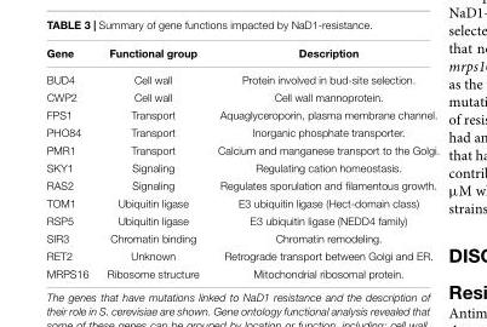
<table><thead><tr><td>Gene</td><td>Functional group</td><td>Description</td></tr></thead><tbody><tr><td>BUD4</td><td>Cell wall</td><td>Protein involved in bud-site selection.</td></tr><tr><td>CWP2</td><td>Cell wall</td><td>Cell wall mannoprotein.</td></tr><tr><td>FPS1</td><td>Transport</td><td>Aquaglyceroporin, plasma membrane channel.</td></tr><tr><td>PHO84</td><td>Transport</td><td>Inorganic phosphate transporter.</td></tr><tr><td>PMR1</td><td>Transport</td><td>Calcium and manganese transport to the Golgi.</td></tr><tr><td>SKY1</td><td>Signaling</td><td>Regulating cation homeostasis.</td></tr><tr><td>RAS2</td><td>Signaling</td><td>Regulates sporulation and filamentous growth.</td></tr><tr><td>TOM1</td><td>Ubiquitin ligase</td><td>E3 ubiquitin ligase (Hect-domain class)</td></tr><tr><td>RSP5</td><td>Ubiquitin ligase</td><td>E3 ubiquitin ligase (NEDD4 family)</td></tr><tr><td>SIR3</td><td>Chromatin binding</td><td>Chromatin remodeling.</td></tr><tr><td>RET2</td><td>Unknown</td><td>Retrograde transport between Golgi and ER.</td></tr><tr><td>MRPS16</td><td>Ribosome structure</td><td>Mitochondrial ribosomal protein.</td></tr></tbody></table>